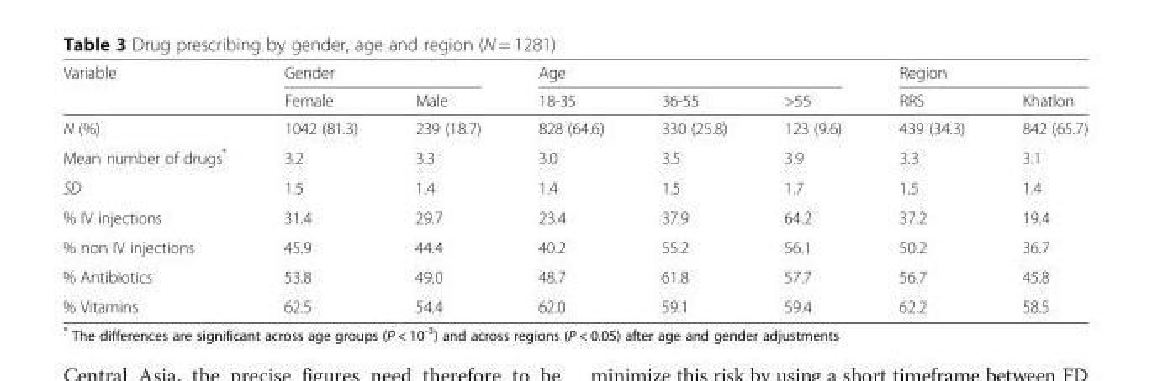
<table><thead><tr><td rowspan="2">Variable</td><td colspan="2">Gender</td><td colspan="3">Age</td><td colspan="2">Region</td></tr><tr><td>Female</td><td>Male</td><td>18-35</td><td>36-55</td><td>&gt;55</td><td>RRS</td><td>Khatlon</td></tr></thead><tbody><tr><td>N (%)</td><td>1042 (81.3)</td><td>239 (18.7)</td><td>828 (64.6)</td><td>330 (25.8)</td><td>123 (9.6)</td><td>439 (34.3)</td><td>842 (65.7)</td></tr><tr><td>Mean number of drugs*</td><td>3.2</td><td>3.3</td><td>3.0</td><td>3.5</td><td>3.9</td><td>3.3</td><td>3.1</td></tr><tr><td>SD</td><td>1.5</td><td>1.4</td><td>1.4</td><td>1.5</td><td>1.7</td><td>1.5</td><td>1.4</td></tr><tr><td>% IV injections</td><td>31.4</td><td>29.7</td><td>23.4</td><td>37.9</td><td>64.2</td><td>37.2</td><td>19.4</td></tr><tr><td>% non IV injections</td><td>45.9</td><td>44.4</td><td>40.2</td><td>55.2</td><td>56.1</td><td>50.2</td><td>36.7</td></tr><tr><td>% Antibiotics</td><td>53.8</td><td>49.0</td><td>48.7</td><td>61.8</td><td>57.7</td><td>56.7</td><td>45.8</td></tr><tr><td>% Vitamins</td><td>62.5</td><td>54.4</td><td>62.0</td><td>59.1</td><td>59.4</td><td>62.2</td><td>58.5</td></tr></tbody></table>